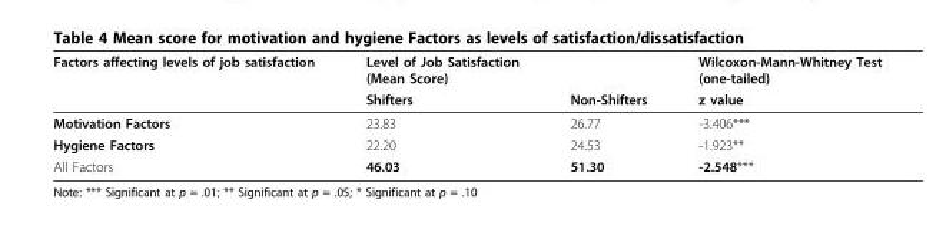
<table><thead><tr><td rowspan="2">Factors affecting levels of job satisfaction</td><td rowspan="2">Level of Job Satisfaction (Mean Score) Shifters</td><td rowspan="2">Non-Shifters</td><td rowspan="2">Wilcoxon-Mann-Whitney Test (one-tailed) z value</td></tr><tr></tr></thead><tbody><tr><td>Motivation Factors</td><td>23.83</td><td>26.77</td><td>-3.406***</td></tr><tr><td>Hygiene Factors</td><td>22.20</td><td>24.53</td><td>-1.923**</td></tr><tr><td>All Factors</td><td>46.03</td><td>51.30</td><td>-2.548***</td></tr></tbody></table>